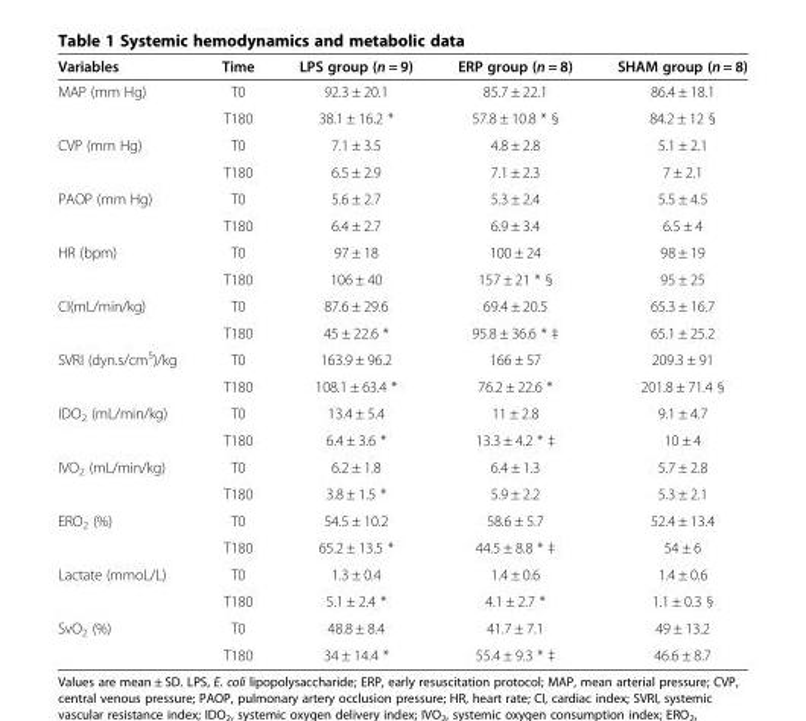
<table><thead><tr><td>Variables</td><td>Time</td><td>LPS group (n = 9)</td><td>ERP group (n = 8)</td><td>SHAM group (n = 8)</td></tr></thead><tbody><tr><td rowspan="2">MAP (mm Hg)</td><td>T0</td><td>92.3 ± 20.1</td><td>85.7 ± 22.1</td><td>86.4 ± 18.1</td></tr><tr><td>T180</td><td>38.1 ± 16.2 *</td><td>57.8 ± 10.8 * §</td><td>84.2 ± 12 §</td></tr><tr><td rowspan="2">CVP (mm Hg)</td><td>T0</td><td>7.1 ± 3.5</td><td>4.8 ± 2.8</td><td>5.1 ± 2.1</td></tr><tr><td>T180</td><td>6.5 ± 2.9</td><td>7.1 ± 2.3</td><td>7 ± 2.1</td></tr><tr><td rowspan="2">PAOP (mm Hg)</td><td>T0</td><td>5.6 ± 2.7</td><td>5.3 ± 2.4</td><td>5.5 ± 4.5</td></tr><tr><td>T180</td><td>6.4 ± 2.7</td><td>6.9 ± 3.4</td><td>6.5 ± 4</td></tr><tr><td rowspan="2">HR (bpm)</td><td>T0</td><td>97 ± 18</td><td>100 ± 24</td><td>98 ± 19</td></tr><tr><td>T180</td><td>106 ± 40</td><td>157 ± 21 * §</td><td>95 ± 25</td></tr><tr><td rowspan="2">CI(mL/min/kg)</td><td>T0</td><td>87.6 ± 29.6</td><td>69.4 ± 20.5</td><td>65.3 ± 16.7</td></tr><tr><td>T180</td><td>45 ± 22.6 *</td><td>95.8 ± 36.6 * ‡</td><td>65.1 ± 25.2</td></tr><tr><td rowspan="2">SVRI (dyn.s/cm<sup>5</sup>)/kg</td><td>T0</td><td>163.9 ± 96.2</td><td>166 ± 57</td><td>209.3 ± 91</td></tr><tr><td>T180</td><td>108.1 ± 63.4 *</td><td>76.2 ± 22.6 *</td><td>201.8 ± 71.4 §</td></tr><tr><td rowspan="2">IDO<sub>2</sub> (mL/min/kg)</td><td>T0</td><td>13.4 ± 5.4</td><td>11 ± 2.8</td><td>9.1 ± 4.7</td></tr><tr><td>T180</td><td>6.4 ± 3.6 *</td><td>13.3 ± 4.2 * ‡</td><td>10 ± 4</td></tr><tr><td rowspan="2">IVO<sub>2</sub> (mL/min/kg)</td><td>T0</td><td>6.2 ± 1.8</td><td>6.4 ± 1.3</td><td>5.7 ± 2.8</td></tr><tr><td>T180</td><td>3.8 ± 1.5 *</td><td>5.9 ± 2.2</td><td>5.3 ± 2.1</td></tr><tr><td rowspan="2">ERO<sub>2</sub> (%)</td><td>T0</td><td>54.5 ± 10.2</td><td>58.6 ± 5.7</td><td>52.4 ± 13.4</td></tr><tr><td>T180</td><td>65.2 ± 13.5 *</td><td>44.5 ± 8.8 * ‡</td><td>54 ± 6</td></tr><tr><td rowspan="2">Lactate (mmoL/L)</td><td>T0</td><td>1.3 ± 0.4</td><td>1.4 ± 0.6</td><td>1.4 ± 0.6</td></tr><tr><td>T180</td><td>5.1 ± 2.4 *</td><td>4.1 ± 2.7 *</td><td>1.1 ± 0.3 §</td></tr><tr><td rowspan="2">SvO<sub>2</sub> (%)</td><td>T0</td><td>48.8 ± 8.4</td><td>41.7 ± 7.1</td><td>49 ± 13.2</td></tr><tr><td>T180</td><td>34 ± 14.4 *</td><td>55.4 ± 9.3 * ‡</td><td>46.6 ± 8.7</td></tr></tbody></table>